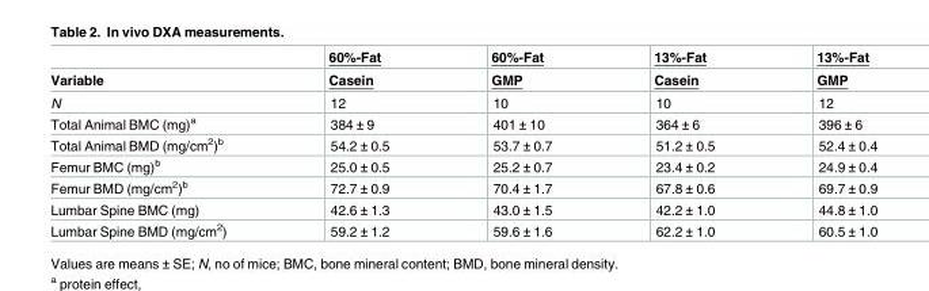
<table><thead><tr><td rowspan="2">Variable</td><td rowspan="2">60%-Fat Casein</td><td rowspan="2">60%-Fat GMP</td><td rowspan="2">13%-Fat Casein</td><td rowspan="2">13%-Fat GMP</td></tr><tr></tr></thead><tbody><tr><td>N</td><td>12</td><td>10</td><td>10</td><td>12</td></tr><tr><td>Total Animal BMC (mg)<sup>a</sup></td><td>384 ± 9</td><td>401 ± 10</td><td>364 ± 6</td><td>396 ± 6</td></tr><tr><td>Total Animal BMD (mg/cm<sup>2</sup>)<sup>b</sup></td><td>54.2 ± 0.5</td><td>53.7 ± 0.7</td><td>51.2 ± 0.5</td><td>52.4 ± 0.4</td></tr><tr><td>Femur BMC (mg)<sup>b</sup></td><td>25.0 ± 0.5</td><td>25.2 ± 0.7</td><td>23.4 ± 0.2</td><td>24.9 ± 0.4</td></tr><tr><td>Femur BMD (mg/cm<sup>2</sup>)<sup>b</sup></td><td>72.7 ± 0.9</td><td>70.4 ± 1.7</td><td>67.8 ± 0.6</td><td>69.7 ± 0.9</td></tr><tr><td>Lumbar Spine BMC (mg)</td><td>42.6 ± 1.3</td><td>43.0 ± 1.5</td><td>42.2 ± 1.0</td><td>44.8 ± 1.0</td></tr><tr><td>Lumbar Spine BMD (mg/cm<sup>2</sup>)</td><td>59.2 ± 1.2</td><td>59.6 ± 1.6</td><td>62.2 ± 1.0</td><td>60.5 ± 1.0</td></tr></tbody></table>